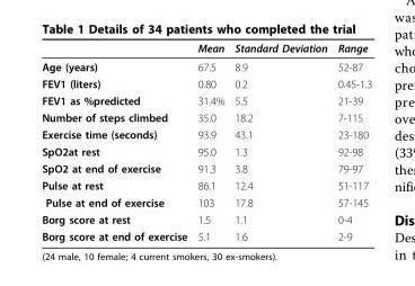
<table><thead><tr><td></td><td>Mean</td><td>Standard Deviation</td><td>Range</td></tr></thead><tbody><tr><td>Age (years)</td><td>67.5</td><td>8.9</td><td>52-87</td></tr><tr><td>FEV1 (liters)</td><td>0.80</td><td>0.2</td><td>0.45-1.3</td></tr><tr><td>FEV1 as %predicted</td><td>31.4%</td><td>5.5</td><td>21-39</td></tr><tr><td>Number of steps climbed</td><td>35.0</td><td>18.2</td><td>7-115</td></tr><tr><td>Exercise time (seconds)</td><td>93.9</td><td>43.1</td><td>23-180</td></tr><tr><td>SpO2at rest</td><td>95.0</td><td>1.3</td><td>92-98</td></tr><tr><td>SpO2 at end of exercise</td><td>91.3</td><td>3.8</td><td>79-97</td></tr><tr><td>Pulse at rest</td><td>86.1</td><td>12.4</td><td>51-117</td></tr><tr><td>Pulse at end of exercise</td><td>103</td><td>17.8</td><td>57-145</td></tr><tr><td>Borg score at rest</td><td>1.5</td><td>1.1</td><td>0-4</td></tr><tr><td>Borg score at end of exercise</td><td>5.1</td><td>1.6</td><td>2-9</td></tr></tbody></table>